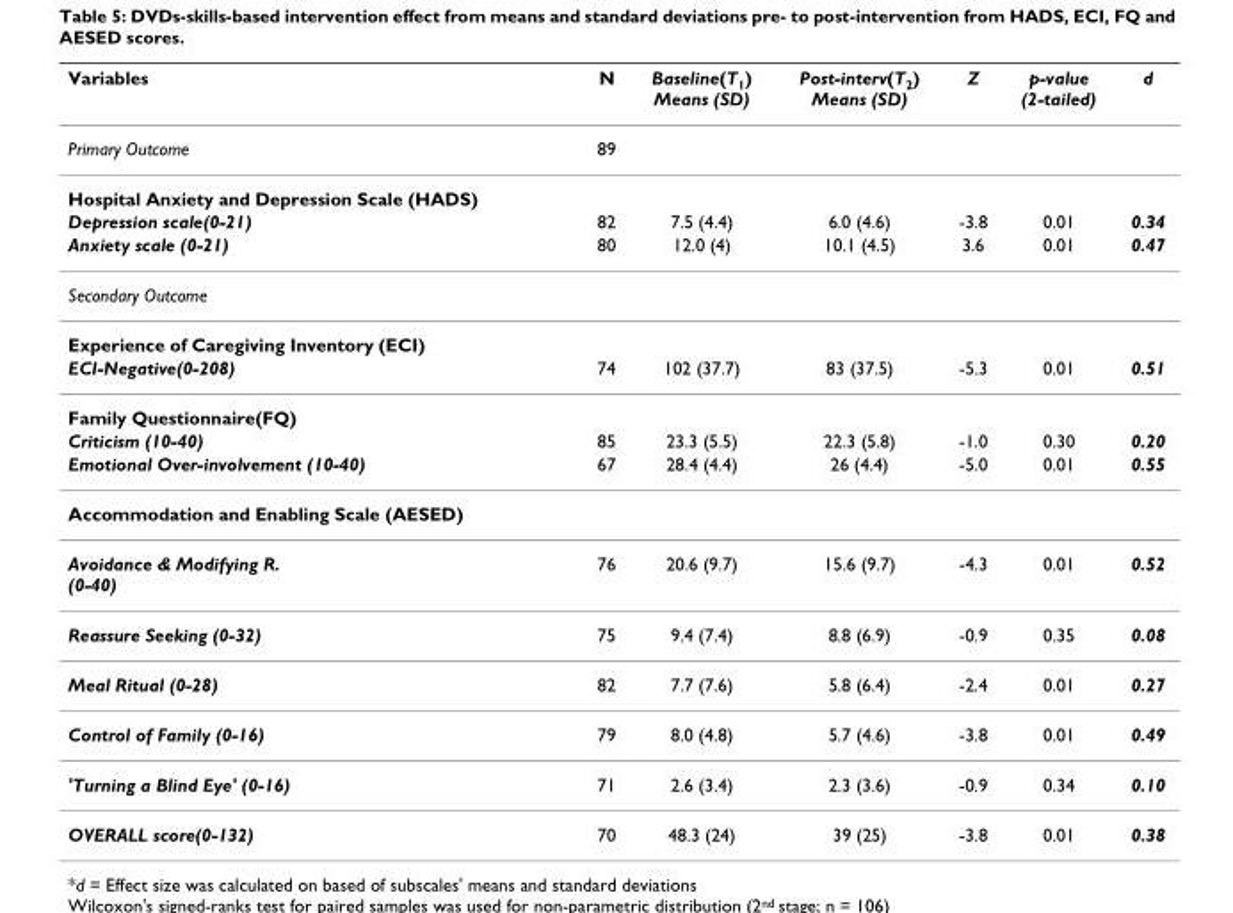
<table><thead><tr><td>Variables</td><td>N</td><td>Baseline(T<sub>1</sub>) Means (SD)</td><td>Post-interv(T<sub>2</sub>) Means (SD)</td><td>Z</td><td>p-value (2-tailed)</td><td>d</td></tr></thead><tbody><tr><td>Primary Outcome</td><td>89</td><td></td><td></td><td></td><td></td><td></td></tr><tr><td colspan="7">Hospital Anxiety and Depression Scale (HADS)</td></tr><tr><td>Depression scale(0-21)</td><td>82</td><td>7.5 (4.4)</td><td>6.0 (4.6)</td><td>-3.8</td><td>0.01</td><td>0.34</td></tr><tr><td>Anxiety scale (0-21)</td><td>80</td><td>12.0 (4)</td><td>10.1 (4.5)</td><td>3.6</td><td>0.01</td><td>0.47</td></tr><tr><td colspan="7">Secondary Outcome</td></tr><tr><td colspan="7">Experience of Caregiving Inventory (ECI)</td></tr><tr><td>ECI-Negative(0-208)</td><td>74</td><td>102 (37.7)</td><td>83 (37.5)</td><td>-5.3</td><td>0.01</td><td>0.51</td></tr><tr><td colspan="7">Family Questionnaire(FQ)</td></tr><tr><td>Criticism (10-40)</td><td>85</td><td>23.3 (5.5)</td><td>22.3 (5.8)</td><td>-1.0</td><td>0.30</td><td>0.20</td></tr><tr><td>Emotional Over-involvement (10-40)</td><td>67</td><td>28.4 (4.4)</td><td>26 (4.4)</td><td>-5.0</td><td>0.01</td><td>0.55</td></tr><tr><td colspan="7">Accommodation and Enabling Scale (AESED)</td></tr><tr><td>Avoidance &amp; Modifying R. (0-40)</td><td>76</td><td>20.6 (9.7)</td><td>15.6 (9.7)</td><td>-4.3</td><td>0.01</td><td>0.52</td></tr><tr><td>Reassure Seeking (0-32)</td><td>75</td><td>9.4 (7.4)</td><td>8.8 (6.9)</td><td>-0.9</td><td>0.35</td><td>0.08</td></tr><tr><td>Meal Ritual (0-28)</td><td>82</td><td>7.7 (7.6)</td><td>5.8 (6.4)</td><td>-2.4</td><td>0.01</td><td>0.27</td></tr><tr><td>Control of Family (0-16)</td><td>79</td><td>8.0 (4.8)</td><td>5.7 (4.6)</td><td>-3.8</td><td>0.01</td><td>0.49</td></tr><tr><td>&#x27;Turning a Blind Eye&#x27; (0-16)</td><td>71</td><td>2.6 (3.4)</td><td>2.3 (3.6)</td><td>-0.9</td><td>0.34</td><td>0.10</td></tr><tr><td>OVERALL score(0-132)</td><td>70</td><td>48.3 (24)</td><td>39 (25)</td><td>-3.8</td><td>0.01</td><td>0.38</td></tr></tbody></table>